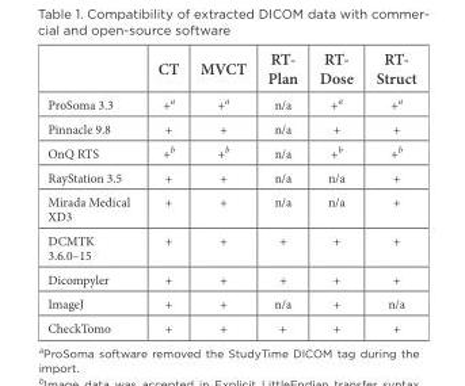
<table><thead><tr><td></td><td>CT</td><td>MVCT</td><td>RT- Plan</td><td>RT- Dose</td><td>RT- Struct</td></tr></thead><tbody><tr><td>ProSoma 3.3</td><td>+<sup>a</sup></td><td>+<sup>a</sup></td><td>n/a</td><td>+<sup>a</sup></td><td>+<sup>a</sup></td></tr><tr><td>Pinnacle 9.8</td><td>+</td><td>+</td><td>n/a</td><td>+</td><td>+</td></tr><tr><td>OnQ RTS</td><td>+<sup>b</sup></td><td>+<sup>b</sup></td><td>n/a</td><td>+b</td><td>+b</td></tr><tr><td>RayStation 3.5</td><td>+</td><td>+</td><td>n/a</td><td>n/a</td><td>+</td></tr><tr><td>Mirada Medical XD3</td><td>+</td><td>+</td><td>n/a</td><td>n/a</td><td>+</td></tr><tr><td>DCMTK 3.6.0–15</td><td>+</td><td>+</td><td>+</td><td>+</td><td>+</td></tr><tr><td>Dicompyler</td><td>+</td><td>+</td><td>+</td><td>+</td><td>+</td></tr><tr><td>ImageJ</td><td>+</td><td>+</td><td>n/a</td><td>+</td><td>n/a</td></tr><tr><td>CheckTomo</td><td>+</td><td>+</td><td>+</td><td>+</td><td>+</td></tr></tbody></table>